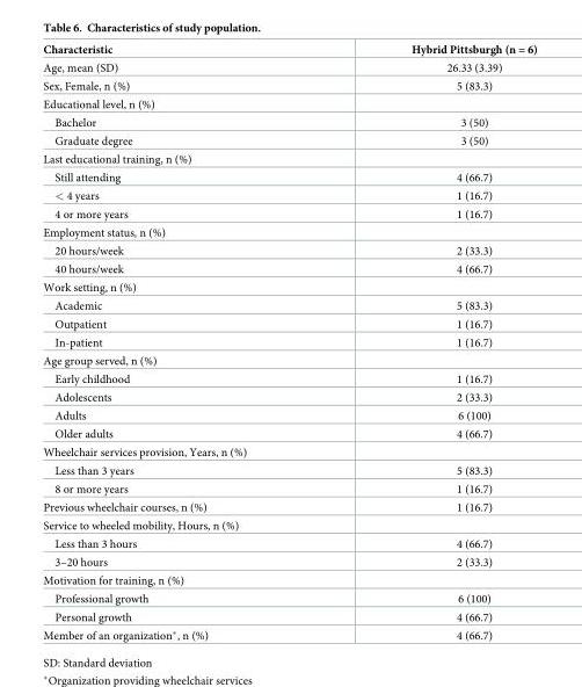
<table><thead><tr><td>Characteristic</td><td>Hybrid Pittsburgh (n = 6)</td></tr></thead><tbody><tr><td>Age, mean (SD)</td><td>26.33 (3.39)</td></tr><tr><td>Sex, Female, n (%)</td><td>5 (83.3)</td></tr><tr><td colspan="2">Educational level, n (%)</td></tr><tr><td>Bachelor</td><td>3 (50)</td></tr><tr><td>Graduate degree</td><td>3 (50)</td></tr><tr><td colspan="2">Last educational training, n (%)</td></tr><tr><td>Still attending</td><td>4 (66.7)</td></tr><tr><td>&lt; 4 years</td><td>1 (16.7)</td></tr><tr><td>4 or more years</td><td>1 (16.7)</td></tr><tr><td colspan="2">Employment status, n (%)</td></tr><tr><td>20 hours/week</td><td>2 (33.3)</td></tr><tr><td>40 hours/week</td><td>4 (66.7)</td></tr><tr><td colspan="2">Work setting, n (%)</td></tr><tr><td>Academic</td><td>5 (83.3)</td></tr><tr><td>Outpatient</td><td>1 (16.7)</td></tr><tr><td>In-patient</td><td>1 (16.7)</td></tr><tr><td colspan="2">Age group served, n (%)</td></tr><tr><td>Early childhood</td><td>1 (16.7)</td></tr><tr><td>Adolescents</td><td>2 (33.3)</td></tr><tr><td>Adults</td><td>6 (100)</td></tr><tr><td>Older adults</td><td>4 (66.7)</td></tr><tr><td colspan="2">Wheelchair services provision, Years, n (%)</td></tr><tr><td>Less than 3 years</td><td>5 (83.3)</td></tr><tr><td>8 or more years</td><td>1 (16.7)</td></tr><tr><td>Previous wheelchair courses, n (%)</td><td>1 (16.7)</td></tr><tr><td colspan="2">Service to wheeled mobility, Hours, n (%)</td></tr><tr><td>Less than 3 hours</td><td>4 (66.7)</td></tr><tr><td>3–20 hours</td><td>2 (33.3)</td></tr><tr><td colspan="2">Motivation for training, n (%)</td></tr><tr><td>Professional growth</td><td>6 (100)</td></tr><tr><td>Personal growth</td><td>4 (66.7)</td></tr><tr><td>Member of an organization*, n (%)</td><td>4 (66.7)</td></tr></tbody></table>